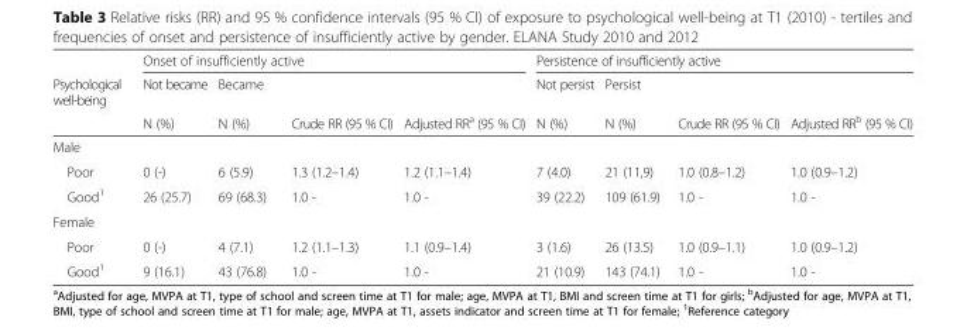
<table><thead><tr><td rowspan="3">Psychological well-being</td><td colspan="4">Onset of insufficiently active</td><td colspan="4">Persistence of insufficiently active</td></tr><tr><td rowspan="2">Not became N (%)</td><td rowspan="2">Became N (%)</td><td rowspan="2">Crude RR (95 % CI)</td><td rowspan="2">Adjusted RR<sup>a</sup> (95 % CI)</td><td rowspan="2">Not persist N (%)</td><td rowspan="2">Persist N (%)</td><td rowspan="2">Crude RR (95 % CI)</td><td rowspan="2">Adjusted RR<sup>b</sup> (95 % CI)</td></tr><tr></tr></thead><tbody><tr><td colspan="9">Male</td></tr><tr><td>Poor</td><td>0 (-)</td><td>6 (5.9)</td><td>1.3 (1.2–1.4)</td><td>1.2 (1.1–1.4)</td><td>7 (4.0)</td><td>21 (11,9)</td><td>1.0 (0.8–1.2)</td><td>1.0 (0.9–1.2)</td></tr><tr><td>Good<sup>1</sup></td><td>26 (25.7)</td><td>69 (68.3)</td><td>1.0 -</td><td>1.0 -</td><td>39 (22.2)</td><td>109 (61.9)</td><td>1.0 -</td><td>1.0 -</td></tr><tr><td colspan="9">Female</td></tr><tr><td>Poor</td><td>0 (-)</td><td>4 (7.1)</td><td>1.2 (1.1–1.3)</td><td>1.1 (0.9–1.4)</td><td>3 (1.6)</td><td>26 (13.5)</td><td>1.0 (0.9–1.1)</td><td>1.0 (0.9–1.2)</td></tr><tr><td>Good<sup>1</sup></td><td>9 (16.1)</td><td>43 (76.8)</td><td>1.0 -</td><td>1.0 -</td><td>21 (10.9)</td><td>143 (74.1)</td><td>1.0 -</td><td>1.0 -</td></tr></tbody></table>